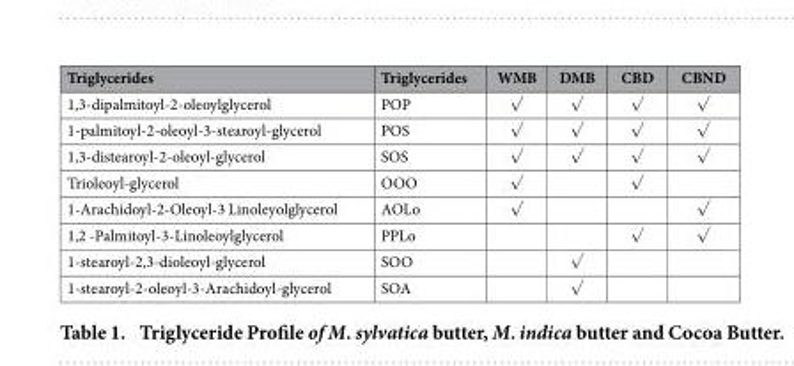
<table><thead><tr><td>Triglycerides</td><td>Triglycerides</td><td>WMB</td><td>DMB</td><td>CBD</td><td>CBND</td></tr></thead><tbody><tr><td>1,3-dipalmitoyl-2-oleoylglycerol</td><td>POP</td><td>√</td><td>√</td><td>√</td><td>√</td></tr><tr><td>1-palmitoyl-2-oleoyl-3-stearoyl-glycerol</td><td>POS</td><td>√</td><td>√</td><td>√</td><td>√</td></tr><tr><td>1,3-distearoyl-2-oleoyl-glycerol</td><td>SOS</td><td>√</td><td>√</td><td>√</td><td>√</td></tr><tr><td>Trioleoyl-glycerol</td><td>OOO</td><td>√</td><td></td><td>√</td><td></td></tr><tr><td>1-Arachidoyl-2-Oleoyl-3 Linoleyolglycerol</td><td>AOLo</td><td>√</td><td></td><td></td><td>√</td></tr><tr><td>1,2 -Palmitoyl-3-Linoleoylglycerol</td><td>PPLo</td><td></td><td></td><td>√</td><td>√</td></tr><tr><td>1-stearoyl-2,3-dioleoyl-glycerol</td><td>SOO</td><td></td><td>√</td><td></td><td></td></tr><tr><td>1-stearoyl-2-oleoyl-3-Arachidoyl-glycerol</td><td>SOA</td><td></td><td>√</td><td></td><td></td></tr></tbody></table>